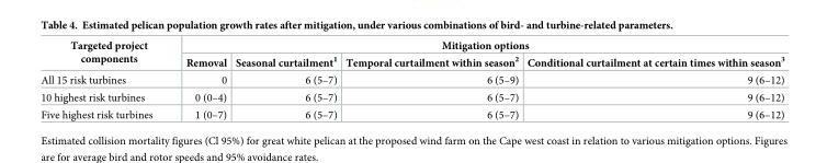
<table><thead><tr><td rowspan="2">Targeted project components</td><td colspan="4">Mitigation options</td></tr><tr><td>Removal</td><td>Seasonal curtailment<sup>1</sup></td><td>Temporal curtailment within season<sup>2</sup></td><td>Conditional curtailment at certain times within season<sup>3</sup></td></tr></thead><tbody><tr><td>All 15 risk turbines</td><td>0</td><td>6 (5–7)</td><td>6 (5–9)</td><td>9 (6–12)</td></tr><tr><td>10 highest risk turbines</td><td>0 (0–4)</td><td>6 (5–7)</td><td>6 (5–7)</td><td>9 (6–12)</td></tr><tr><td>Five highest risk turbines</td><td>1 (0–7)</td><td>6 (5–7)</td><td>6 (5–7)</td><td>9 (6–12)</td></tr></tbody></table>